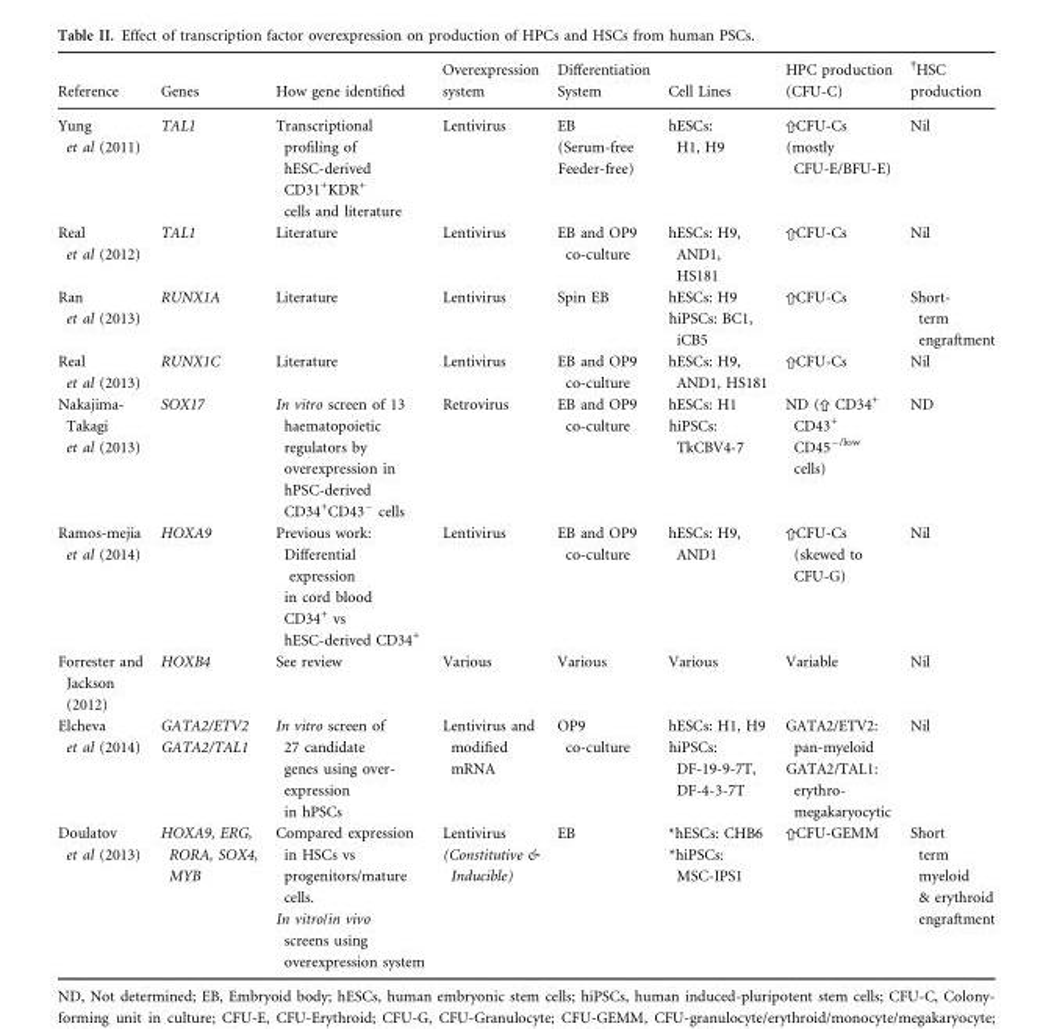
<table><thead><tr><td>Reference</td><td>Genes</td><td>How gene identified</td><td>Overexpression system</td><td>Differentiation System</td><td>Cell Lines</td><td>HPC production (CFU-C)</td><td>†HSC production</td></tr></thead><tbody><tr><td>Yung et al (2011)</td><td>TAL1</td><td>Transcriptional profiling of hESC-derived CD31<sup>+</sup>KDR<sup>+</sup> cells and literature</td><td>Lentivirus</td><td>EB (Serum-free Feeder-free)</td><td>hESCs: H1, H9</td><td>CFU-Cs (mostly CFU-E/BFU-E)</td><td>Nil</td></tr><tr><td>Real et al (2012)</td><td>TAL1</td><td>Literature</td><td>Lentivirus</td><td>EB and OP9 co-culture</td><td>hESCs: H9, AND1, HS181</td><td>CFU-Cs</td><td>Nil</td></tr><tr><td>Ran et al (2013)</td><td>RUNX1A</td><td>Literature</td><td>Lentivirus</td><td>Spin EB</td><td>hESCs: H9 hiPSCs: BC1, iCB5</td><td>CFU-Cs</td><td>Short- term engraftment</td></tr><tr><td>Real et al (2013)</td><td>RUNX1C</td><td>Literature</td><td>Lentivirus</td><td>EB and OP9 co-culture</td><td>hESCs: H9, AND1, HS181</td><td>CFU-Cs</td><td>Nil</td></tr><tr><td>Nakajima- Takagi et al (2013)</td><td>SOX17</td><td>In vitro screen of 13 haematopoietic regulators by overexpression in hPSC-derived CD34<sup>+</sup>CD43<sup>−</sup> cells</td><td>Retrovirus</td><td>EB and OP9 co-culture</td><td>hESCs: H1 hiPSCs: TkCBV4-7</td><td>ND ( CD34<sup>+</sup> CD43<sup>+</sup> CD45<sup>−/low</sup> cells)</td><td>ND</td></tr><tr><td>Ramos-mejia et al (2014)</td><td>HOXA9</td><td>Previous work: Differential expression in cord blood CD34<sup>+</sup> vs hESC-derived CD34<sup>+</sup></td><td>Lentivirus</td><td>EB and OP9 co-culture</td><td>hESCs: H9, AND1</td><td>CFU-Cs (skewed to CFU-G)</td><td>Nil</td></tr><tr><td>Forrester and Jackson (2012)</td><td>HOXB4</td><td>See review</td><td>Various</td><td>Various</td><td>Various</td><td>Variable</td><td>Nil</td></tr><tr><td>Elcheva et al (2014)</td><td>GATA2/ETV2 GATA2/TAL1</td><td>In vitro screen of 27 candidate genes using over- expression in hPSCs</td><td>Lentivirus and modified mRNA</td><td>OP9 co-culture</td><td>hESCs: H1, H9 hiPSCs: DF-19-9-7T, DF-4-3-7T</td><td>GATA2/ETV2: pan-myeloid GATA2/TAL1: erythro- megakaryocytic</td><td>Nil</td></tr><tr><td>Doulatov et al (2013)</td><td>HOXA9, ERG, RORA, SOX4, MYB</td><td>Compared expression in HSCs vs progenitors/mature cells. In vitro/in vivo screens using overexpression system</td><td>Lentivirus (Constitutive &amp; Inducible)</td><td>EB</td><td>*hESCs: CHB6 *hiPSCs: MSC-IPS1</td><td>CFU-GEMM</td><td>Short term myeloid &amp; erythroid engraftment</td></tr></tbody></table>